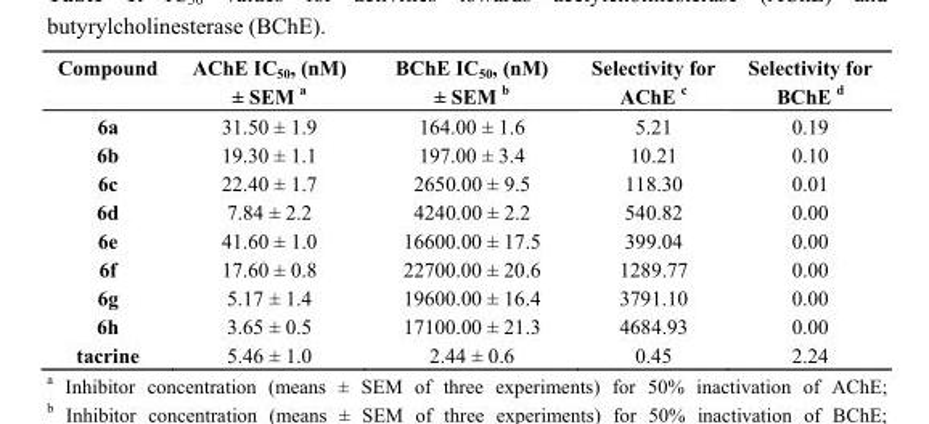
<table><thead><tr><td>Compound</td><td>AChE IC<sub>50</sub>, (nM) ± SEM a</td><td>BChE IC<sub>50</sub>, (nM) ± SEM b</td><td>Selectivity for AChE c</td><td>Selectivity for BChE d</td></tr></thead><tbody><tr><td>6a</td><td>31.50 ± 1.9</td><td>164.00 ± 1.6</td><td>5.21</td><td>0.19</td></tr><tr><td>6b</td><td>19.30 ± 1.1</td><td>197.00 ± 3.4</td><td>10.21</td><td>0.10</td></tr><tr><td>6c</td><td>22.40 ± 1.7</td><td>2650.00 ± 9.5</td><td>118.30</td><td>0.01</td></tr><tr><td>6d</td><td>7.84 ± 2.2</td><td>4240.00 ± 2.2</td><td>540.82</td><td>0.00</td></tr><tr><td>6e</td><td>41.60 ± 1.0</td><td>16600.00 ± 17.5</td><td>399.04</td><td>0.00</td></tr><tr><td>6f</td><td>17.60 ± 0.8</td><td>22700.00 ± 20.6</td><td>1289.77</td><td>0.00</td></tr><tr><td>6g</td><td>5.17 ± 1.4</td><td>19600.00 ± 16.4</td><td>3791.10</td><td>0.00</td></tr><tr><td>6h</td><td>3.65 ± 0.5</td><td>17100.00 ± 21.3</td><td>4684.93</td><td>0.00</td></tr><tr><td>tacrine</td><td>5.46 ± 1.0</td><td>2.44 ± 0.6</td><td>0.45</td><td>2.24</td></tr></tbody></table>